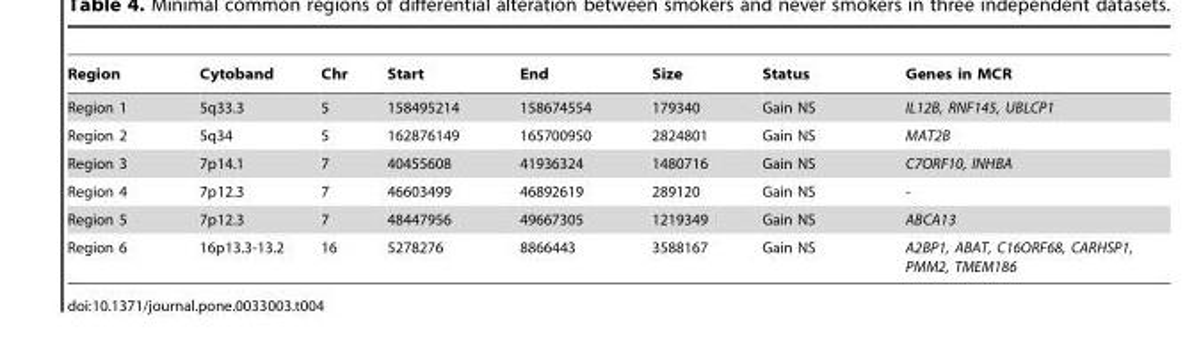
<table><thead><tr><td>Region</td><td>Cytoband</td><td>Chr</td><td>Start</td><td>End</td><td>Size</td><td>Status</td><td>Genes in MCR</td></tr></thead><tbody><tr><td>Region 1</td><td>5q33.3</td><td>5</td><td>158495214</td><td>158674554</td><td>179340</td><td>Gain NS</td><td>IL12B, RNF145, UBLCP1</td></tr><tr><td>Region 2</td><td>5q34</td><td>5</td><td>162876149</td><td>165700950</td><td>2824801</td><td>Gain NS</td><td>MAT2B</td></tr><tr><td>Region 3</td><td>7p14.1</td><td>7</td><td>40455608</td><td>41936324</td><td>1480716</td><td>Gain NS</td><td>C7ORF10, INHBA</td></tr><tr><td>Region 4</td><td>7p12.3</td><td>7</td><td>46603499</td><td>46892619</td><td>289120</td><td>Gain NS</td><td>-</td></tr><tr><td>Region 5</td><td>7p12.3</td><td>7</td><td>48447956</td><td>49667305</td><td>1219349</td><td>Gain NS</td><td>ABCA13</td></tr><tr><td>Region 6</td><td>16p13.3-13.2</td><td>16</td><td>5278276</td><td>8866443</td><td>3588167</td><td>Gain NS</td><td>A2BP1, ABAT, C16ORF68, CARHSP1, PMM2, TMEM186</td></tr></tbody></table>